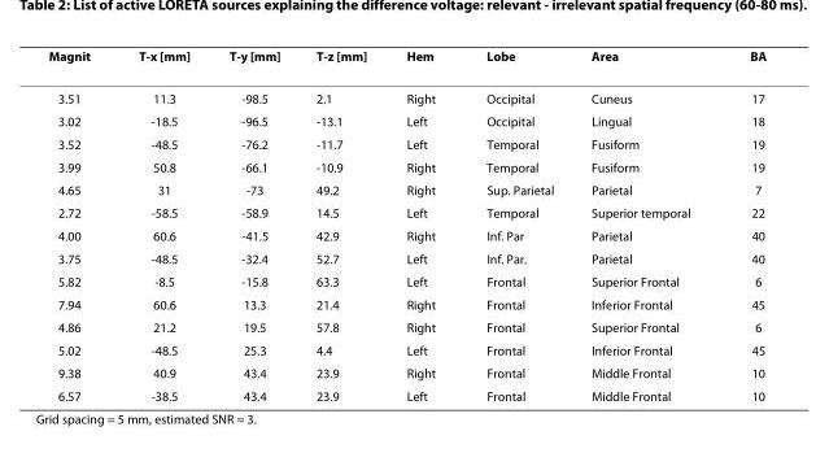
<table><thead><tr><td>Magnit</td><td>T-x [mm]</td><td>T-y [mm]</td><td>T-z [mm]</td><td>Hem</td><td>Lobe</td><td>Area</td><td>BA</td></tr></thead><tbody><tr><td>3.51</td><td>11.3</td><td>-98.5</td><td>2.1</td><td>Right</td><td>Occipital</td><td>Cuneus</td><td>17</td></tr><tr><td>3.02</td><td>-18.5</td><td>-96.5</td><td>-13.1</td><td>Left</td><td>Occipital</td><td>Lingual</td><td>18</td></tr><tr><td>3.52</td><td>-48.5</td><td>-76.2</td><td>-11.7</td><td>Left</td><td>Temporal</td><td>Fusiform</td><td>19</td></tr><tr><td>3.99</td><td>50.8</td><td>-66.1</td><td>-10.9</td><td>Right</td><td>Temporal</td><td>Fusiform</td><td>19</td></tr><tr><td>4.65</td><td>31</td><td>-73</td><td>49.2</td><td>Right</td><td>Sup. Parietal</td><td>Parietal</td><td>7</td></tr><tr><td>2.72</td><td>-58.5</td><td>-58.9</td><td>14.5</td><td>Left</td><td>Temporal</td><td>Superior temporal</td><td>22</td></tr><tr><td>4.00</td><td>60.6</td><td>-41.5</td><td>42.9</td><td>Right</td><td>Inf. Par</td><td>Parietal</td><td>40</td></tr><tr><td>3.75</td><td>-48.5</td><td>-32.4</td><td>52.7</td><td>Left</td><td>Inf. Par.</td><td>Parietal</td><td>40</td></tr><tr><td>5.82</td><td>-8.5</td><td>-15.8</td><td>63.3</td><td>Left</td><td>Frontal</td><td>Superior Frontal</td><td>6</td></tr><tr><td>7.94</td><td>60.6</td><td>13.3</td><td>21.4</td><td>Right</td><td>Frontal</td><td>Inferior Frontal</td><td>45</td></tr><tr><td>4.86</td><td>21.2</td><td>19.5</td><td>57.8</td><td>Right</td><td>Frontal</td><td>Superior Frontal</td><td>6</td></tr><tr><td>5.02</td><td>-48.5</td><td>25.3</td><td>4.4</td><td>Left</td><td>Frontal</td><td>Inferior Frontal</td><td>45</td></tr><tr><td>9.38</td><td>40.9</td><td>43.4</td><td>23.9</td><td>Right</td><td>Frontal</td><td>Middle Frontal</td><td>10</td></tr><tr><td>6.57</td><td>-38.5</td><td>43.4</td><td>23.9</td><td>Left</td><td>Frontal</td><td>Middle Frontal</td><td>10</td></tr></tbody></table>